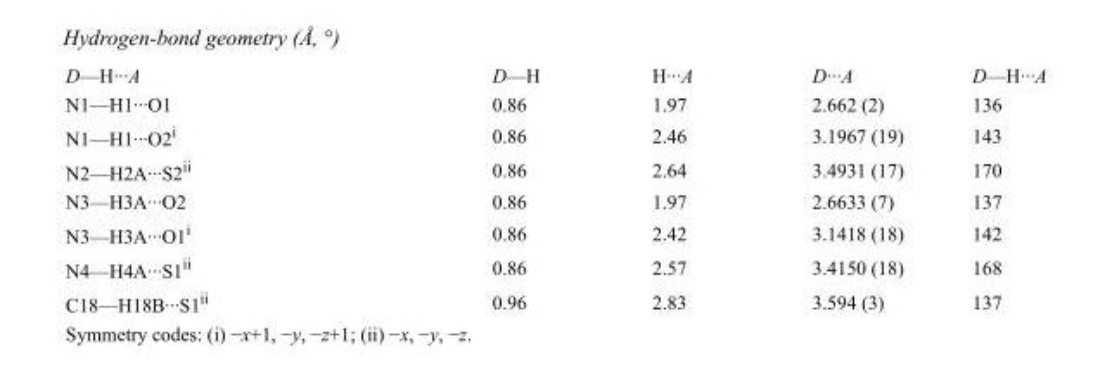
<table><tbody><tr><td>D—H···A</td><td>D—H</td><td>H···A</td><td>D···A</td><td>D—H···A</td></tr><tr><td>N1—H1···O1</td><td>0.86</td><td>1.97</td><td>2.662 (2)</td><td>136</td></tr><tr><td>N1—H1···O2<sup>i</sup></td><td>0.86</td><td>2.46</td><td>3.1967 (19)</td><td>143</td></tr><tr><td>N2—H2A···S2<sup>ii</sup></td><td>0.86</td><td>2.64</td><td>3.4931 (17)</td><td>170</td></tr><tr><td>N3—H3A···O2</td><td>0.86</td><td>1.97</td><td>2.6633 (7)</td><td>137</td></tr><tr><td>N3—H3A···O1<sup>i</sup></td><td>0.86</td><td>2.42</td><td>3.1418 (18)</td><td>142</td></tr><tr><td>N4—H4A···S1<sup>ii</sup></td><td>0.86</td><td>2.57</td><td>3.4150 (18)</td><td>168</td></tr><tr><td>C18—H18B···S1<sup>ii</sup></td><td>0.96</td><td>2.83</td><td>3.594 (3)</td><td>137</td></tr></tbody></table>